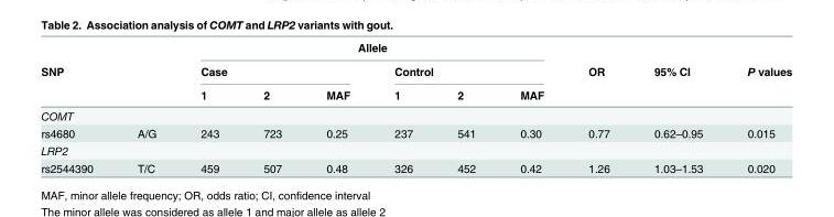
<table><thead><tr><td rowspan="3">SNP</td><td rowspan="3"></td><td colspan="6">Allele</td><td rowspan="3">OR</td><td rowspan="3">95% CI</td><td rowspan="3">P values</td></tr><tr><td colspan="3">Case</td><td colspan="3">Control</td></tr><tr><td>1</td><td>2</td><td>MAF</td><td>1</td><td>2</td><td>MAF</td></tr></thead><tbody><tr><td colspan="11">COMT</td></tr><tr><td>rs4680</td><td>A/G</td><td>243</td><td>723</td><td>0.25</td><td>237</td><td>541</td><td>0.30</td><td>0.77</td><td>0.62–0.95</td><td>0.015</td></tr><tr><td colspan="11">LRP2</td></tr><tr><td>rs2544390</td><td>T/C</td><td>459</td><td>507</td><td>0.48</td><td>326</td><td>452</td><td>0.42</td><td>1.26</td><td>1.03–1.53</td><td>0.020</td></tr></tbody></table>